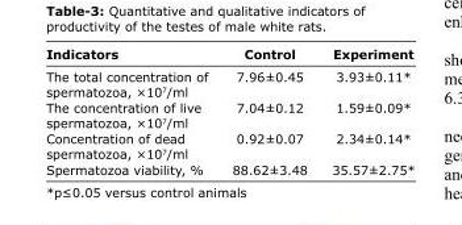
<table><thead><tr><td>Indicators</td><td>Control</td><td>Experiment</td></tr></thead><tbody><tr><td>The total concentration of spermatozoa, ×10<sup>7</sup>/ml</td><td>7.96±0.45</td><td>3.93±0.11*</td></tr><tr><td>The concentration of live spermatozoa, ×10<sup>7</sup>/ml</td><td>7.04±0.12</td><td>1.59±0.09*</td></tr><tr><td>Concentration of dead spermatozoa, ×10<sup>7</sup>/ml</td><td>0.92±0.07</td><td>2.34±0.14*</td></tr><tr><td>Spermatozoa viability, %</td><td>88.62±3.48</td><td>35.57±2.75*</td></tr></tbody></table>